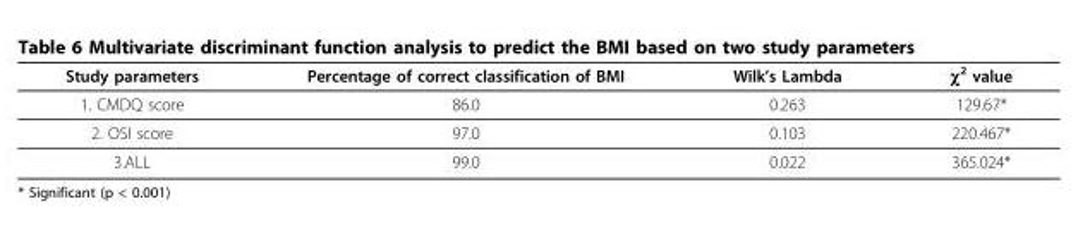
<table><thead><tr><td>Study parameters</td><td>Percentage of correct classification of BMI</td><td>Wilk’s Lambda</td><td>χ<sup>2</sup> value</td></tr></thead><tbody><tr><td>1. CMDQ score</td><td>86.0</td><td>0.263</td><td>129.67*</td></tr><tr><td>2. OSI score</td><td>97.0</td><td>0.103</td><td>220.467*</td></tr><tr><td>3.ALL</td><td>99.0</td><td>0.022</td><td>365.024*</td></tr></tbody></table>